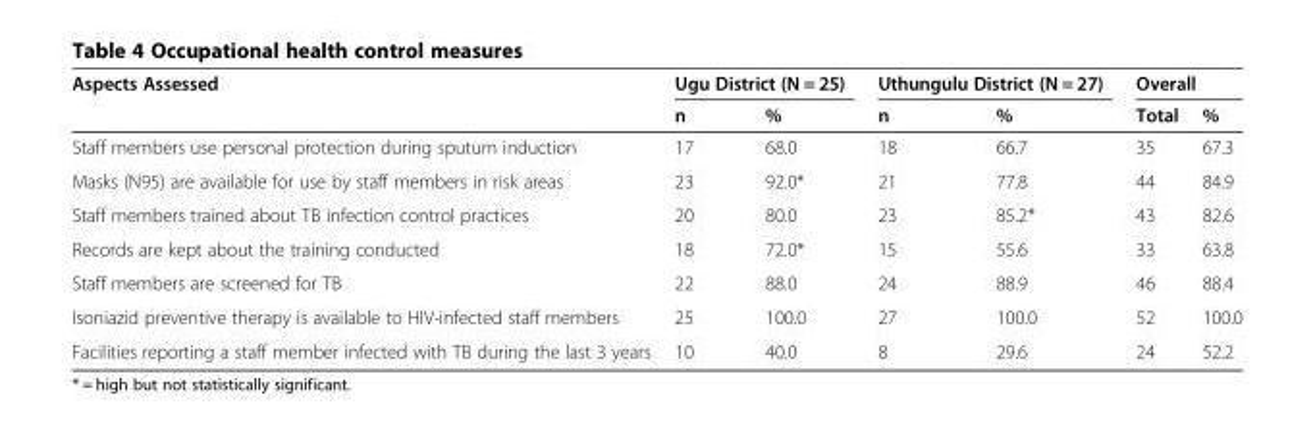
<table><thead><tr><td rowspan="2">Aspects Assessed</td><td colspan="2">Ugu District (N = 25)</td><td colspan="2">Uthungulu District (N = 27)</td><td colspan="2">Overall</td></tr><tr><td>n</td><td>%</td><td>n</td><td>%</td><td>Total</td><td>%</td></tr></thead><tbody><tr><td>Staff members use personal protection during sputum induction</td><td>17</td><td>68.0</td><td>18</td><td>66.7</td><td>35</td><td>67.3</td></tr><tr><td>Masks (N95) are available for use by staff members in risk areas</td><td>23</td><td>92.0*</td><td>21</td><td>77.8</td><td>44</td><td>84.9</td></tr><tr><td>Staff members trained about TB infection control practices</td><td>20</td><td>80.0</td><td>23</td><td>85.2*</td><td>43</td><td>82.6</td></tr><tr><td>Records are kept about the training conducted</td><td>18</td><td>72.0*</td><td>15</td><td>55.6</td><td>33</td><td>63.8</td></tr><tr><td>Staff members are screened for TB</td><td>22</td><td>88.0</td><td>24</td><td>88.9</td><td>46</td><td>88.4</td></tr><tr><td>Isoniazid preventive therapy is available to HIV-infected staff members</td><td>25</td><td>100.0</td><td>27</td><td>100.0</td><td>52</td><td>100.0</td></tr><tr><td>Facilities reporting a staff member infected with TB during the last 3 years</td><td>10</td><td>40.0</td><td>8</td><td>29.6</td><td>24</td><td>52.2</td></tr></tbody></table>